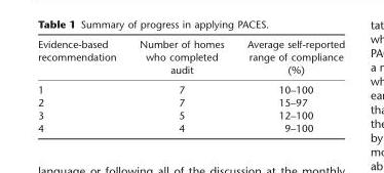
<table><thead><tr><td>Evidence-based recommendation</td><td>Number of homes who completed audit</td><td>Average self-reported range of compliance (%)</td></tr></thead><tbody><tr><td>1</td><td>7</td><td>10–100</td></tr><tr><td>2</td><td>7</td><td>15–97</td></tr><tr><td>3</td><td>5</td><td>12–100</td></tr><tr><td>4</td><td>4</td><td>9–100</td></tr></tbody></table>